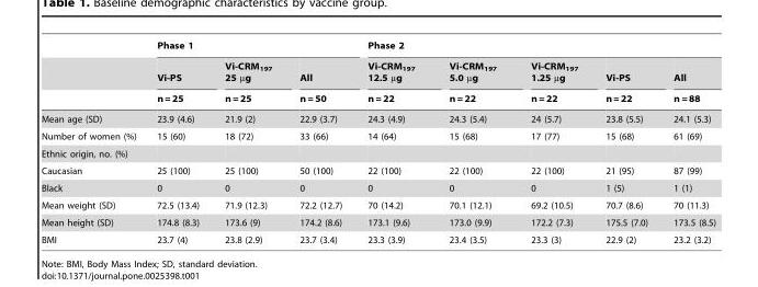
<table><thead><tr><td rowspan="3"></td><td colspan="3">Phase 1</td><td colspan="5">Phase 2</td></tr><tr><td rowspan="2">Vi-PS n = 25</td><td rowspan="2">Vi-CRM<sub>197</sub> 25 µg n = 25</td><td rowspan="2">All n = 50</td><td rowspan="2">Vi-CRM<sub>197</sub> 12.5 µg n = 22</td><td rowspan="2">Vi-CRM<sub>197</sub> 5.0 µg n = 22</td><td rowspan="2">Vi-CRM<sub>197</sub> 1.25 µg n = 22</td><td rowspan="2">Vi-PS n = 22</td><td rowspan="2">All n = 88</td></tr><tr></tr></thead><tbody><tr><td>Mean age (SD)</td><td>23.9 (4.6)</td><td>21.9 (2)</td><td>22.9 (3.7)</td><td>24.3 (4.9)</td><td>24.3 (5.4)</td><td>24 (5.7)</td><td>23.8 (5.5)</td><td>24.1 (5.3)</td></tr><tr><td>Number of women (%)</td><td>15 (60)</td><td>18 (72)</td><td>33 (66)</td><td>14 (64)</td><td>15 (68)</td><td>17 (77)</td><td>15 (68)</td><td>61 (69)</td></tr><tr><td colspan="9">Ethnic origin, no. (%)</td></tr><tr><td>Caucasian</td><td>25 (100)</td><td>25 (100)</td><td>50 (100)</td><td>22 (100)</td><td>22 (100)</td><td>22 (100)</td><td>21 (95)</td><td>87 (99)</td></tr><tr><td>Black</td><td>0</td><td>0</td><td>0</td><td>0</td><td>0</td><td>0</td><td>1 (5)</td><td>1 (1)</td></tr><tr><td>Mean weight (SD)</td><td>72.5 (13.4)</td><td>71.9 (12.3)</td><td>72.2 (12.7)</td><td>70 (14.2)</td><td>70.1 (12.1)</td><td>69.2 (10.5)</td><td>70.7 (8.6)</td><td>70 (11.3)</td></tr><tr><td>Mean height (SD)</td><td>174.8 (8.3)</td><td>173.6 (9)</td><td>174.2 (8.6)</td><td>173.1 (9.6)</td><td>173.0 (9.9)</td><td>172.2 (7.3)</td><td>175.5 (7.0)</td><td>173.5 (8.5)</td></tr><tr><td>BMI</td><td>23.7 (4)</td><td>23.8 (2.9)</td><td>23.7 (3.4)</td><td>23.3 (3.9)</td><td>23.4 (3.5)</td><td>23.3 (3)</td><td>22.9 (2)</td><td>23.2 (3.2)</td></tr></tbody></table>